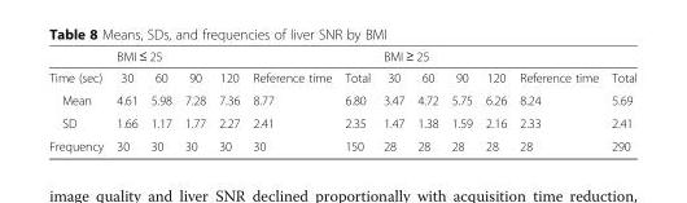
<table><thead><tr><td rowspan="2">Time (sec)</td><td colspan="6">BMI ≤ 25</td><td colspan="6">BMI ≥ 25</td></tr><tr><td>30</td><td>60</td><td>90</td><td>120</td><td>Reference time</td><td>Total</td><td>30</td><td>60</td><td>90</td><td>120</td><td>Reference time</td><td>Total</td></tr></thead><tbody><tr><td>Mean</td><td>4.61</td><td>5.98</td><td>7.28</td><td>7.36</td><td>8.77</td><td>6.80</td><td>3.47</td><td>4.72</td><td>5.75</td><td>6.26</td><td>8.24</td><td>5.69</td></tr><tr><td>SD</td><td>1.66</td><td>1.17</td><td>1.77</td><td>2.27</td><td>2.41</td><td>2.35</td><td>1.47</td><td>1.38</td><td>1.59</td><td>2.16</td><td>2.33</td><td>2.41</td></tr><tr><td>Frequency</td><td>30</td><td>30</td><td>30</td><td>30</td><td>30</td><td>150</td><td>28</td><td>28</td><td>28</td><td>28</td><td>28</td><td>290</td></tr></tbody></table>